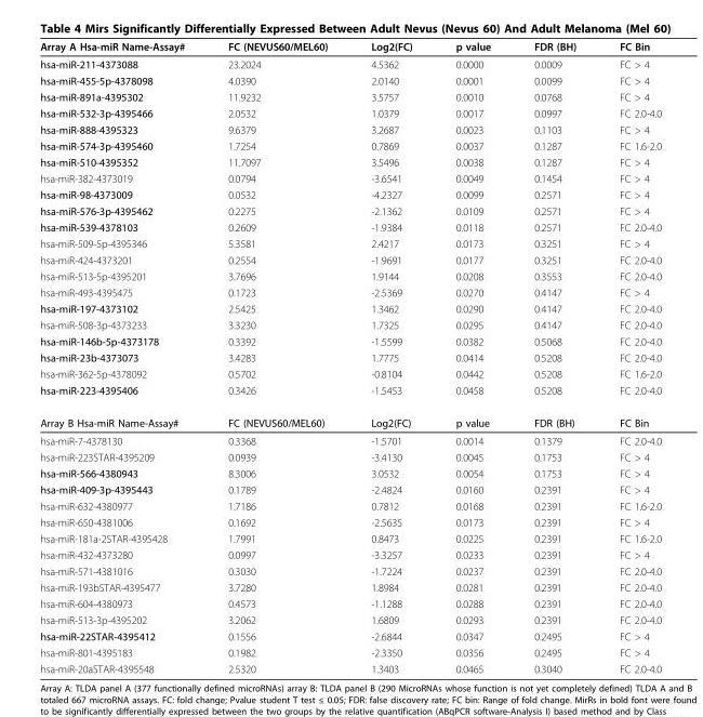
<table><thead><tr><td>Array A Hsa-miR Name-Assay#</td><td>FC (NEVUS60/MEL60)</td><td>Log2(FC)</td><td>p value</td><td>FDR (BH)</td><td>FC Bin</td></tr></thead><tbody><tr><td>hsa-miR-211-4373088</td><td>23.2024</td><td>4.5362</td><td>0.0000</td><td>0.0009</td><td>FC &gt; 4</td></tr><tr><td>hsa-miR-455-5p-4378098</td><td>4.0390</td><td>2.0140</td><td>0.0001</td><td>0.0099</td><td>FC &gt; 4</td></tr><tr><td>hsa-miR-891a-4395302</td><td>11.9232</td><td>3.5757</td><td>0.0010</td><td>0.0768</td><td>FC &gt; 4</td></tr><tr><td>hsa-miR-532-3p-4395466</td><td>2.0532</td><td>1.0379</td><td>0.0017</td><td>0.0997</td><td>FC 2.0-4.0</td></tr><tr><td>hsa-miR-888-4395323</td><td>9.6379</td><td>3.2687</td><td>0.0023</td><td>0.1103</td><td>FC &gt; 4</td></tr><tr><td>hsa-miR-574-3p-4395460</td><td>1.7254</td><td>0.7869</td><td>0.0037</td><td>0.1287</td><td>FC 1.6-2.0</td></tr><tr><td>hsa-miR-510-4395352</td><td>11.7097</td><td>3.5496</td><td>0.0038</td><td>0.1287</td><td>FC &gt; 4</td></tr><tr><td>hsa-miR-382-4373019</td><td>0.0794</td><td>-3.6541</td><td>0.0049</td><td>0.1454</td><td>FC &gt; 4</td></tr><tr><td>hsa-miR-98-4373009</td><td>0.0532</td><td>-4.2327</td><td>0.0099</td><td>0.2571</td><td>FC &gt; 4</td></tr><tr><td>hsa-miR-576-3p-4395462</td><td>0.2275</td><td>-2.1362</td><td>0.0109</td><td>0.2571</td><td>FC &gt; 4</td></tr><tr><td>hsa-miR-539-4378103</td><td>0.2609</td><td>-1.9384</td><td>0.0118</td><td>0.2571</td><td>FC 2.0-4.0</td></tr><tr><td>hsa-miR-509-5p-4395346</td><td>5.3581</td><td>2.4217</td><td>0.0173</td><td>0.3251</td><td>FC &gt; 4</td></tr><tr><td>hsa-miR-424-4373201</td><td>0.2554</td><td>-1.9691</td><td>0.0177</td><td>0.3251</td><td>FC 2.0-4.0</td></tr><tr><td>hsa-miR-513-5p-4395201</td><td>3.7696</td><td>1.9144</td><td>0.0208</td><td>0.3553</td><td>FC 2.0-4.0</td></tr><tr><td>hsa-miR-493-4395475</td><td>0.1723</td><td>-2.5369</td><td>0.0270</td><td>0.4147</td><td>FC &gt; 4</td></tr><tr><td>hsa-miR-197-4373102</td><td>2.5425</td><td>1.3462</td><td>0.0290</td><td>0.4147</td><td>FC 2.0-4.0</td></tr><tr><td>hsa-miR-508-3p-4373233</td><td>3.3230</td><td>1.7325</td><td>0.0295</td><td>0.4147</td><td>FC 2.0-4.0</td></tr><tr><td>hsa-miR-146b-5p-4373178</td><td>0.3392</td><td>-1.5599</td><td>0.0382</td><td>0.5068</td><td>FC 2.0-4.0</td></tr><tr><td>hsa-miR-23b-4373073</td><td>3.4283</td><td>1.7775</td><td>0.0414</td><td>0.5208</td><td>FC 2.0-4.0</td></tr><tr><td>hsa-miR-362-5p-4378092</td><td>0.5702</td><td>-0.8104</td><td>0.0442</td><td>0.5208</td><td>FC 1.6-2.0</td></tr><tr><td>hsa-miR-223-4395406</td><td>0.3426</td><td>-1.5453</td><td>0.0458</td><td>0.5208</td><td>FC 2.0-4.0</td></tr><tr><td>Array B Hsa-miR Name-Assay#</td><td>FC (NEVUS60/MEL60)</td><td>Log2(FC)</td><td>p value</td><td>FDR (BH)</td><td>FC Bin</td></tr><tr><td>hsa-miR-7-4378130</td><td>0.3368</td><td>-1.5701</td><td>0.0014</td><td>0.1379</td><td>FC 2.0-4.0</td></tr><tr><td>hsa-miR-223STAR-4395209</td><td>0.0939</td><td>-3.4130</td><td>0.0045</td><td>0.1753</td><td>FC &gt; 4</td></tr><tr><td>hsa-miR-566-4380943</td><td>8.3006</td><td>3.0532</td><td>0.0054</td><td>0.1753</td><td>FC &gt; 4</td></tr><tr><td>hsa-miR-409-3p-4395443</td><td>0.1789</td><td>-2.4824</td><td>0.0160</td><td>0.2391</td><td>FC &gt; 4</td></tr><tr><td>hsa-miR-632-4380977</td><td>1.7186</td><td>0.7812</td><td>0.0168</td><td>0.2391</td><td>FC 1.6-2.0</td></tr><tr><td>hsa-miR-650-4381006</td><td>0.1692</td><td>-2.5635</td><td>0.0173</td><td>0.2391</td><td>FC &gt; 4</td></tr><tr><td>hsa-miR-181a-2STAR-4395428</td><td>1.7991</td><td>0.8473</td><td>0.0225</td><td>0.2391</td><td>FC 1.6-2.0</td></tr><tr><td>hsa-miR-432-4373280</td><td>0.0997</td><td>-3.3257</td><td>0.0233</td><td>0.2391</td><td>FC &gt; 4</td></tr><tr><td>hsa-miR-571-4381016</td><td>0.3030</td><td>-1.7224</td><td>0.0237</td><td>0.2391</td><td>FC 2.0-4.0</td></tr><tr><td>hsa-miR-193bSTAR-4395477</td><td>3.7280</td><td>1.8984</td><td>0.0281</td><td>0.2391</td><td>FC 2.0-4.0</td></tr><tr><td>hsa-miR-604-4380973</td><td>0.4573</td><td>-1.1288</td><td>0.0288</td><td>0.2391</td><td>FC 2.0-4.0</td></tr><tr><td>hsa-miR-513-3p-4395202</td><td>3.2062</td><td>1.6809</td><td>0.0293</td><td>0.2391</td><td>FC 2.0-4.0</td></tr><tr><td>hsa-miR-22STAR-4395412</td><td>0.1556</td><td>-2.6844</td><td>0.0347</td><td>0.2495</td><td>FC &gt; 4</td></tr><tr><td>hsa-miR-801-4395183</td><td>0.1982</td><td>-2.3350</td><td>0.0356</td><td>0.2495</td><td>FC &gt; 4</td></tr><tr><td>hsa-miR-20aSTAR-4395548</td><td>2.5320</td><td>1.3403</td><td>0.0465</td><td>0.3040</td><td>FC 2.0-4.0</td></tr></tbody></table>